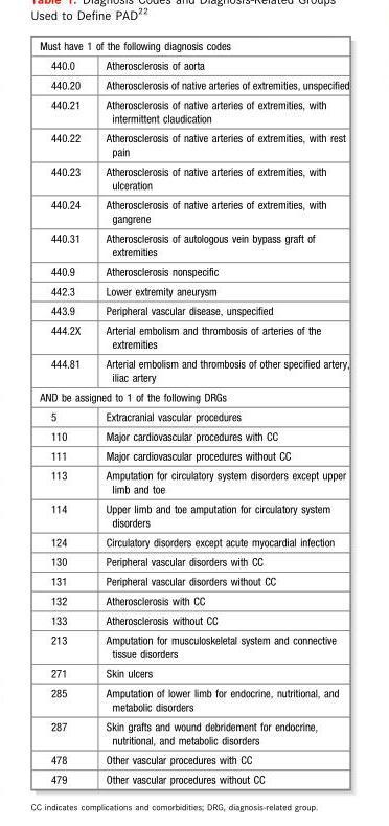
<table><tbody><tr><td colspan="2">Must have 1 of the following diagnosis codes</td></tr><tr><td>440.0</td><td>Atherosclerosis of aorta</td></tr><tr><td>440.20</td><td>Atherosclerosis of native arteries of extremities, unspecified</td></tr><tr><td>440.21</td><td>Atherosclerosis of native arteries of extremities, with intermittent claudication</td></tr><tr><td>440.22</td><td>Atherosclerosis of native arteries of extremities, with rest pain</td></tr><tr><td>440.23</td><td>Atherosclerosis of native arteries of extremities, with ulceration</td></tr><tr><td>440.24</td><td>Atherosclerosis of native arteries of extremities, with gangrene</td></tr><tr><td>440.31</td><td>Atherosclerosis of autologous vein bypass graft of extremities</td></tr><tr><td>440.9</td><td>Atherosclerosis nonspecific</td></tr><tr><td>442.3</td><td>Lower extremity aneurysm</td></tr><tr><td>443.9</td><td>Peripheral vascular disease, unspecified</td></tr><tr><td>444.2X</td><td>Arterial embolism and thrombosis of arteries of the extremities</td></tr><tr><td>444.81</td><td>Arterial embolism and thrombosis of other specified artery, iliac artery</td></tr><tr><td colspan="2">AND be assigned to 1 of the following DRGs</td></tr><tr><td>5</td><td>Extracranial vascular procedures</td></tr><tr><td>110</td><td>Major cardiovascular procedures with CC</td></tr><tr><td>111</td><td>Major cardiovascular procedures without CC</td></tr><tr><td>113</td><td>Amputation for circulatory system disorders except upper limb and toe</td></tr><tr><td>114</td><td>Upper limb and toe amputation for circulatory system disorders</td></tr><tr><td>124</td><td>Circulatory disorders except acute myocardial infection</td></tr><tr><td>130</td><td>Peripheral vascular disorders with CC</td></tr><tr><td>131</td><td>Peripheral vascular disorders without CC</td></tr><tr><td>132</td><td>Atherosclerosis with CC</td></tr><tr><td>133</td><td>Atherosclerosis without CC</td></tr><tr><td>213</td><td>Amputation for musculoskeletal system and connective tissue disorders</td></tr><tr><td>271</td><td>Skin ulcers</td></tr><tr><td>285</td><td>Amputation of lower limb for endocrine, nutritional, and metabolic disorders</td></tr><tr><td>287</td><td>Skin grafts and wound debridement for endocrine, nutritional, and metabolic disorders</td></tr><tr><td>478</td><td>Other vascular procedures with CC</td></tr><tr><td>479</td><td>Other vascular procedures without CC</td></tr></tbody></table>